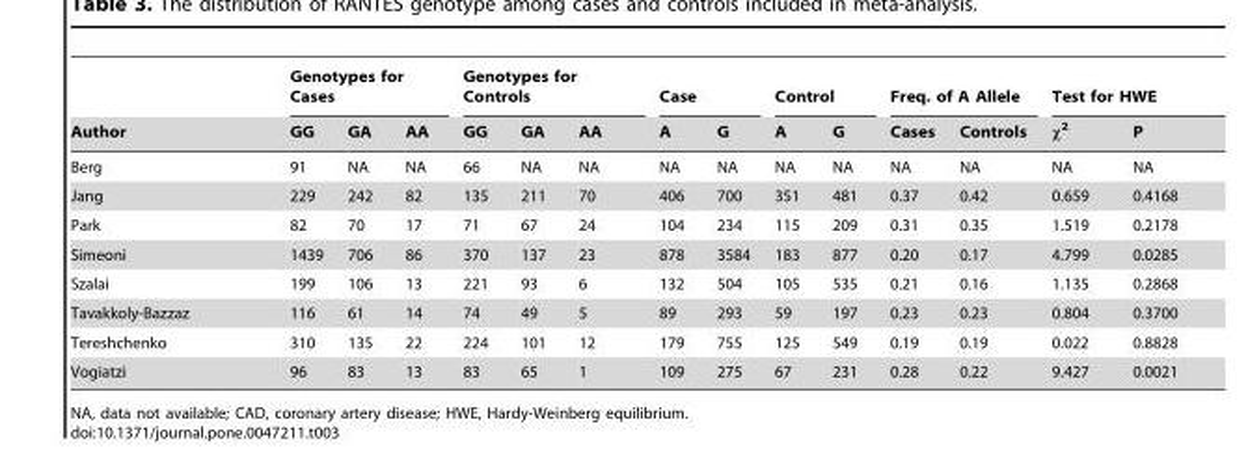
<table><thead><tr><td rowspan="2">Author</td><td colspan="3">Genotypes for Cases</td><td colspan="3">Genotypes for Controls</td><td colspan="2">Case</td><td colspan="2">Control</td><td colspan="2">Freq. of A Allele</td><td colspan="2">Test for HWE</td></tr><tr><td>GG</td><td>GA</td><td>AA</td><td>GG</td><td>GA</td><td>AA</td><td>A</td><td>G</td><td>A</td><td>G</td><td>Cases</td><td>Controls</td><td>x2</td><td>P</td></tr></thead><tbody><tr><td>Berg</td><td>91</td><td>NA</td><td>NA</td><td>66</td><td>NA</td><td>NA</td><td>NA</td><td>NA</td><td>NA</td><td>NA</td><td>NA</td><td>NA</td><td>NA</td><td>NA</td></tr><tr><td>Jang</td><td>229</td><td>242</td><td>82</td><td>135</td><td>211</td><td>70</td><td>406</td><td>700</td><td>351</td><td>481</td><td>0.37</td><td>0.42</td><td>0.659</td><td>0.4168</td></tr><tr><td>Park</td><td>82</td><td>70</td><td>17</td><td>71</td><td>67</td><td>24</td><td>104</td><td>234</td><td>115</td><td>209</td><td>0.31</td><td>0.35</td><td>1.519</td><td>0.2178</td></tr><tr><td>Simeoni</td><td>1439</td><td>706</td><td>86</td><td>370</td><td>137</td><td>23</td><td>878</td><td>3584</td><td>183</td><td>877</td><td>0.20</td><td>0.17</td><td>4.799</td><td>0.0285</td></tr><tr><td>Szalai</td><td>199</td><td>106</td><td>13</td><td>221</td><td>93</td><td>6</td><td>132</td><td>504</td><td>105</td><td>535</td><td>0.21</td><td>0.16</td><td>1.135</td><td>0.2868</td></tr><tr><td>Tavakkoly-Bazzaz</td><td>116</td><td>61</td><td>14</td><td>74</td><td>49</td><td>5</td><td>89</td><td>293</td><td>59</td><td>197</td><td>0.23</td><td>0.23</td><td>0.804</td><td>0.3700</td></tr><tr><td>Tereshchenko</td><td>310</td><td>135</td><td>22</td><td>224</td><td>101</td><td>12</td><td>179</td><td>755</td><td>125</td><td>549</td><td>0.19</td><td>0.19</td><td>0.022</td><td>0.8828</td></tr><tr><td>Vogiatzi</td><td>96</td><td>83</td><td>13</td><td>83</td><td>65</td><td>1</td><td>109</td><td>275</td><td>67</td><td>231</td><td>0.28</td><td>0.22</td><td>9.427</td><td>0.0021</td></tr></tbody></table>